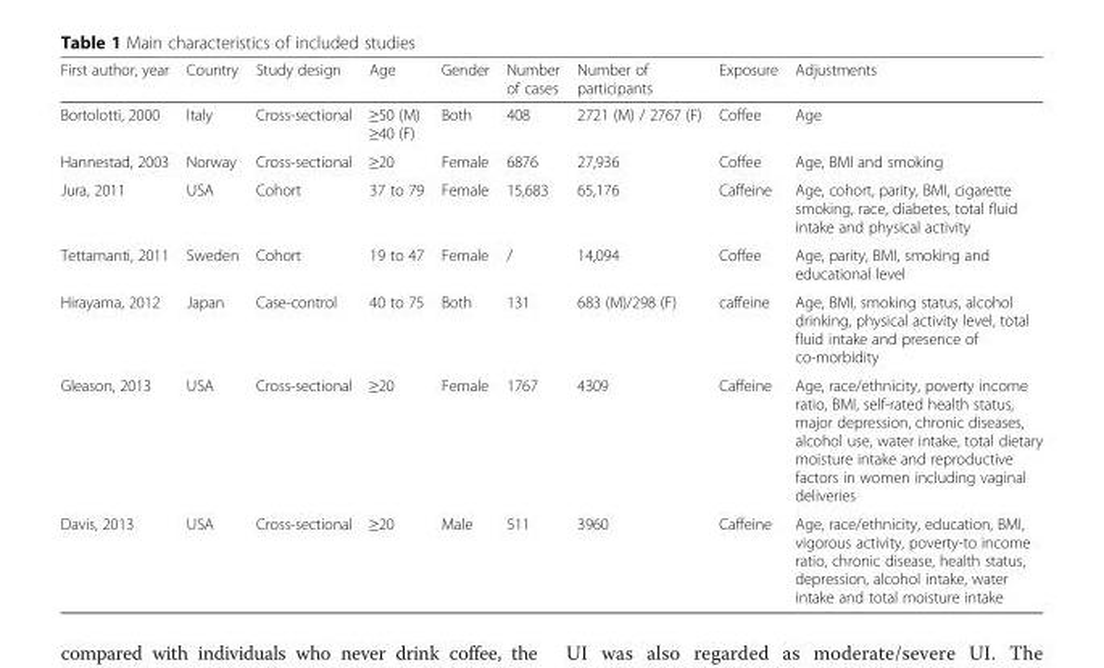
<table><thead><tr><td>First author, year</td><td>Country</td><td>Study design</td><td>Age</td><td>Gender</td><td>Number of cases</td><td>Number of participants</td><td>Exposure</td><td>Adjustments</td></tr></thead><tbody><tr><td>Bortolotti, 2000</td><td>Italy</td><td>Cross-sectional</td><td>≥50 (M) ≥40 (F)</td><td>Both</td><td>408</td><td>2721 (M) / 2767 (F)</td><td>Coffee</td><td>Age</td></tr><tr><td>Hannestad, 2003</td><td>Norway</td><td>Cross-sectional</td><td>≥20</td><td>Female</td><td>6876</td><td>27,936</td><td>Coffee</td><td>Age, BMI and smoking</td></tr><tr><td>Jura, 2011</td><td>USA</td><td>Cohort</td><td>37 to 79</td><td>Female</td><td>15,683</td><td>65,176</td><td>Caffeine</td><td>Age, cohort, parity, BMI, cigarette smoking, race, diabetes, total fluid intake and physical activity</td></tr><tr><td>Tettamanti, 2011</td><td>Sweden</td><td>Cohort</td><td>19 to 47</td><td>Female</td><td>/</td><td>14,094</td><td>Coffee</td><td>Age, parity, BMI, smoking and educational level</td></tr><tr><td>Hirayama, 2012</td><td>Japan</td><td>Case-control</td><td>40 to 75</td><td>Both</td><td>131</td><td>683 (M)/298 (F)</td><td>caffeine</td><td>Age, BMI, smoking status, alcohol drinking, physical activity level, total fluid intake and presence of co-morbidity</td></tr><tr><td>Gleason, 2013</td><td>USA</td><td>Cross-sectional</td><td>≥20</td><td>Female</td><td>1767</td><td>4309</td><td>Caffeine</td><td>Age, race/ethnicity, poverty income ratio, BMI, self-rated health status, major depression, chronic diseases, alcohol use, water intake, total dietary moisture intake and reproductive factors in women including vaginal deliveries</td></tr><tr><td>Davis, 2013</td><td>USA</td><td>Cross-sectional</td><td>≥20</td><td>Male</td><td>511</td><td>3960</td><td>Caffeine</td><td>Age, race/ethnicity, education, BMI, vigorous activity, poverty-to income ratio, chronic disease, health status, depression, alcohol intake, water intake and total moisture intake</td></tr></tbody></table>